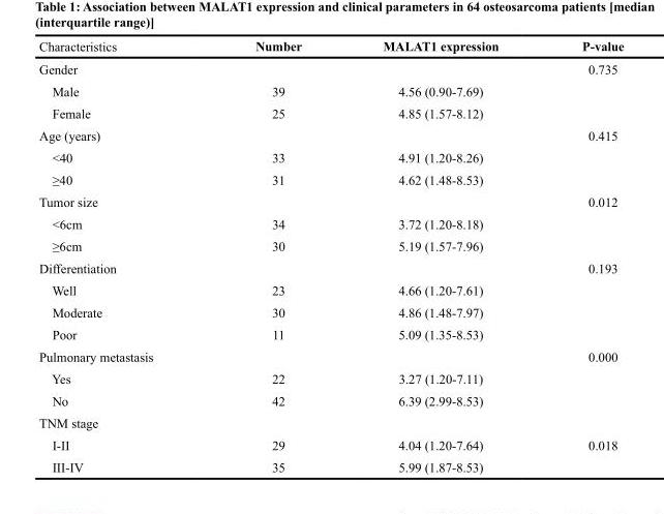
<table><thead><tr><td>Characteristics</td><td>Number</td><td>MALAT1 expression</td><td>P-value</td></tr></thead><tbody><tr><td>Gender</td><td></td><td></td><td>0.735</td></tr><tr><td>Male</td><td>39</td><td>4.56 (0.90-7.69)</td><td></td></tr><tr><td>Female</td><td>25</td><td>4.85 (1.57-8.12)</td><td></td></tr><tr><td>Age (years)</td><td></td><td></td><td>0.415</td></tr><tr><td>&lt;40</td><td>33</td><td>4.91 (1.20-8.26)</td><td></td></tr><tr><td>≥40</td><td>31</td><td>4.62 (1.48-8.53)</td><td></td></tr><tr><td>Tumor size</td><td></td><td></td><td>0.012</td></tr><tr><td>&lt;6cm</td><td>34</td><td>3.72 (1.20-8.18)</td><td></td></tr><tr><td>≥6cm</td><td>30</td><td>5.19 (1.57-7.96)</td><td></td></tr><tr><td>Differentiation</td><td></td><td></td><td>0.193</td></tr><tr><td>Well</td><td>23</td><td>4.66 (1.20-7.61)</td><td></td></tr><tr><td>Moderate</td><td>30</td><td>4.86 (1.48-7.97)</td><td></td></tr><tr><td>Poor</td><td>11</td><td>5.09 (1.35-8.53)</td><td></td></tr><tr><td>Pulmonary metastasis</td><td></td><td></td><td>0.000</td></tr><tr><td>Yes</td><td>22</td><td>3.27 (1.20-7.11)</td><td></td></tr><tr><td>No</td><td>42</td><td>6.39 (2.99-8.53)</td><td></td></tr><tr><td colspan="4">TNM stage</td></tr><tr><td>I-II</td><td>29</td><td>4.04 (1.20-7.64)</td><td>0.018</td></tr><tr><td>III-IV</td><td>35</td><td>5.99 (1.87-8.53)</td><td></td></tr></tbody></table>